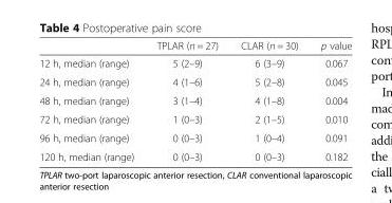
<table><thead><tr><td></td><td>TPLAR (n = 27)</td><td>CLAR (n = 30)</td><td>p value</td></tr></thead><tbody><tr><td>12 h, median (range)</td><td>5 (2–9)</td><td>6 (3–9)</td><td>0.067</td></tr><tr><td>24 h, median (range)</td><td>4 (1–6)</td><td>5 (2–8)</td><td>0.045</td></tr><tr><td>48 h, median (range)</td><td>3 (1–4)</td><td>4 (1–8)</td><td>0.004</td></tr><tr><td>72 h, median (range)</td><td>1 (0–3)</td><td>2 (1–5)</td><td>0.010</td></tr><tr><td>96 h, median (range)</td><td>0 (0–3)</td><td>1 (0–4)</td><td>0.091</td></tr><tr><td>120 h, median (range)</td><td>0 (0–3)</td><td>0 (0–3)</td><td>0.182</td></tr></tbody></table>